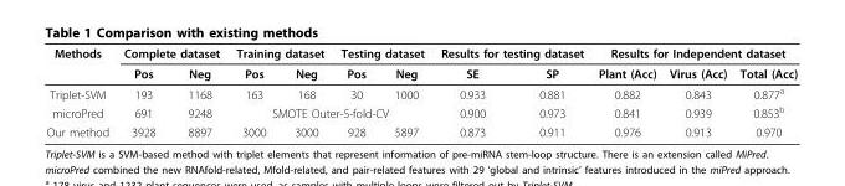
<table><thead><tr><td rowspan="2">Methods</td><td colspan="2">Complete dataset</td><td colspan="2">Training dataset</td><td colspan="2">Testing dataset</td><td colspan="2">Results for testing dataset</td><td colspan="3">Results for Independent dataset</td></tr><tr><td>Pos</td><td>Neg</td><td>Pos</td><td>Neg</td><td>Pos</td><td>Neg</td><td>SE</td><td>SP</td><td>Plant (Acc)</td><td>Virus (Acc)</td><td>Total (Acc)</td></tr></thead><tbody><tr><td>Triplet-SVM</td><td>193</td><td>1168</td><td>163</td><td>168</td><td>30</td><td>1000</td><td>0.933</td><td>0.881</td><td>0.882</td><td>0.843</td><td>0.877<sup>a</sup></td></tr><tr><td>microPred</td><td>691</td><td>9248</td><td colspan="4">SMOTE Outer-5-fold-CV</td><td>0.900</td><td>0.973</td><td>0.841</td><td>0.939</td><td>0.853<sup>b</sup></td></tr><tr><td>Our method</td><td>3928</td><td>8897</td><td>3000</td><td>3000</td><td>928</td><td>5897</td><td>0.873</td><td>0.911</td><td>0.976</td><td>0.913</td><td>0.970</td></tr></tbody></table>